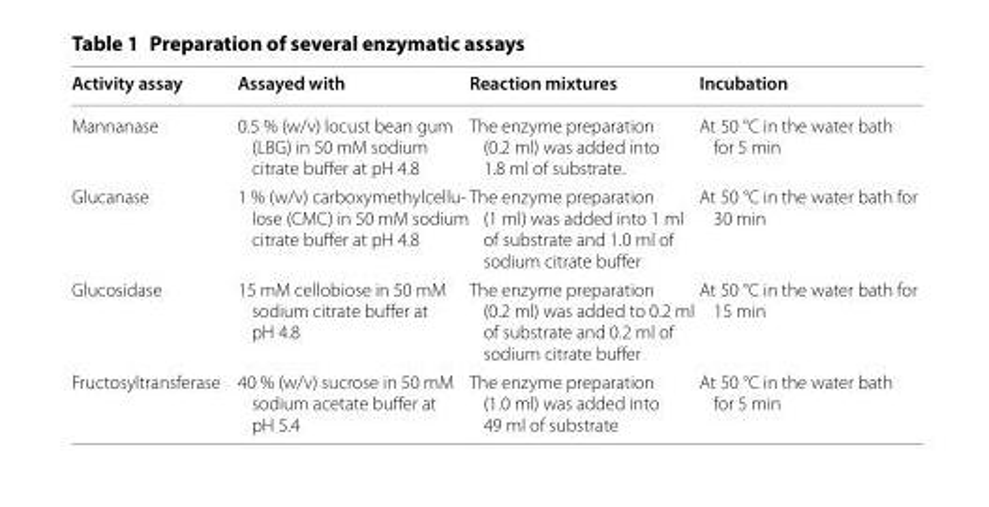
<table><thead><tr><td>Activity assay</td><td>Assayed with</td><td>Reaction mixtures</td><td>Incubation</td></tr></thead><tbody><tr><td>Mannanase</td><td>0.5 % (w/v) locust bean gum (LBG) in 50 mM sodium citrate buffer at pH 4.8</td><td>The enzyme preparation (0.2 ml) was added into 1.8 ml of substrate.</td><td>At 50 °C in the water bath for 5 min</td></tr><tr><td>Glucanase</td><td>1 % (w/v) carboxymethylcellu- lose (CMC) in 50 mM sodium citrate buffer at pH 4.8</td><td>The enzyme preparation (1 ml) was added into 1 ml of substrate and 1.0 ml of sodium citrate buffer</td><td>At 50 °C in the water bath for 30 min</td></tr><tr><td>Glucosidase</td><td>15 mM cellobiose in 50 mM sodium citrate buffer at pH 4.8</td><td>The enzyme preparation (0.2 ml) was added to 0.2 ml of substrate and 0.2 ml of sodium citrate buffer</td><td>At 50 °C in the water bath for 15 min</td></tr><tr><td>Fructosyltransferase</td><td>40 % (w/v) sucrose in 50 mM sodium acetate buffer at pH 5.4</td><td>The enzyme preparation (1.0 ml) was added into 49 ml of substrate</td><td>At 50 °C in the water bath for 5 min</td></tr></tbody></table>